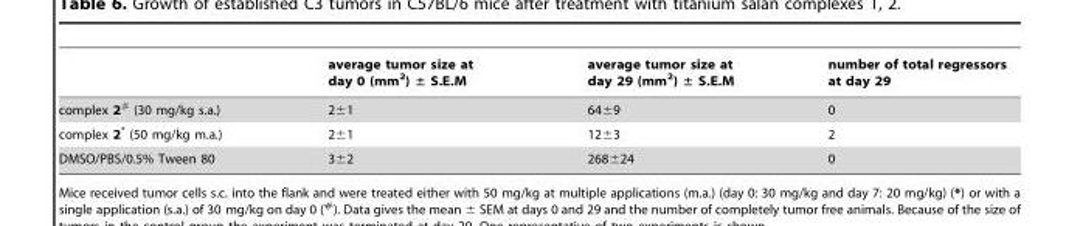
<table><thead><tr><td></td><td>average tumor size at day 0 (mm<sup>2</sup>) ± S.E.M</td><td>average tumor size at day 29 (mm<sup>2</sup>) ± S.E.M</td><td>number of total regressors at day 29</td></tr></thead><tbody><tr><td>complex 2<sup>#</sup> (30 mg/kg s.a.)</td><td>2±1</td><td>64±9</td><td>0</td></tr><tr><td>complex 2* (50 mg/kg m.a.)</td><td>2±1</td><td>12±3</td><td>2</td></tr><tr><td>DMSO/PBS/0.5% Tween 80</td><td>3±2</td><td>268±24</td><td>0</td></tr></tbody></table>